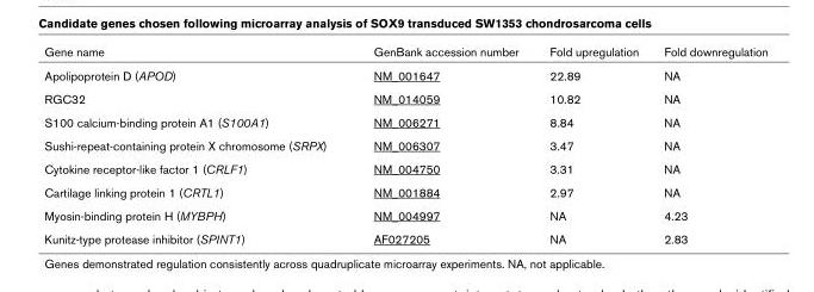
<table><thead><tr><td>Gene name</td><td>GenBank accession number</td><td>Fold upregulation</td><td>Fold downregulation</td></tr></thead><tbody><tr><td>Apolipoprotein D (APOD)</td><td>NM_001647</td><td>22.89</td><td>NA</td></tr><tr><td>RGC32</td><td>NM_014059</td><td>10.82</td><td>NA</td></tr><tr><td>S100 calcium-binding protein A1 (S100A1)</td><td>NM_006271</td><td>8.84</td><td>NA</td></tr><tr><td>Sushi-repeat-containing protein X chromosome (SRPX)</td><td>NM_006307</td><td>3.47</td><td>NA</td></tr><tr><td>Cytokine receptor-like factor 1 (CRLF1)</td><td>NM_004750</td><td>3.31</td><td>NA</td></tr><tr><td>Cartilage linking protein 1 (CRTL1)</td><td>NM_001884</td><td>2.97</td><td>NA</td></tr><tr><td>Myosin-binding protein H (MYBPH)</td><td>NM_004997</td><td>NA</td><td>4.23</td></tr><tr><td>Kunitz-type protease inhibitor (SPINT1)</td><td>AF027205</td><td>NA</td><td>2.83</td></tr></tbody></table>